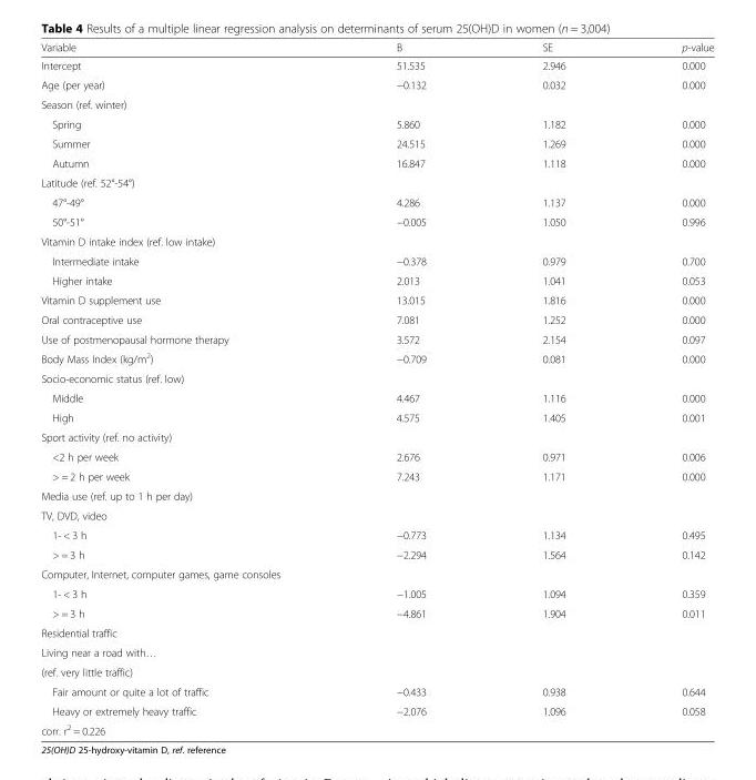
<table><thead><tr><td>Variable</td><td>B</td><td>SE</td><td>p-value</td></tr></thead><tbody><tr><td>Intercept</td><td>51.535</td><td>2.946</td><td>0.000</td></tr><tr><td>Age (per year)</td><td>−0.132</td><td>0.032</td><td>0.000</td></tr><tr><td colspan="4">Season (ref. winter)</td></tr><tr><td>Spring</td><td>5.860</td><td>1.182</td><td>0.000</td></tr><tr><td>Summer</td><td>24.515</td><td>1.269</td><td>0.000</td></tr><tr><td>Autumn</td><td>16.847</td><td>1.118</td><td>0.000</td></tr><tr><td colspan="4">Latitude (ref. 52°-54°)</td></tr><tr><td>47°-49°</td><td>4.286</td><td>1.137</td><td>0.000</td></tr><tr><td>50°-51°</td><td>−0.005</td><td>1.050</td><td>0.996</td></tr><tr><td colspan="4">Vitamin D intake index (ref. low intake)</td></tr><tr><td>Intermediate intake</td><td>−0.378</td><td>0.979</td><td>0.700</td></tr><tr><td>Higher intake</td><td>2.013</td><td>1.041</td><td>0.053</td></tr><tr><td>Vitamin D supplement use</td><td>13.015</td><td>1.816</td><td>0.000</td></tr><tr><td>Oral contraceptive use</td><td>7.081</td><td>1.252</td><td>0.000</td></tr><tr><td>Use of postmenopausal hormone therapy</td><td>3.572</td><td>2.154</td><td>0.097</td></tr><tr><td>Body Mass Index (kg/m<sup>2</sup>)</td><td>−0.709</td><td>0.081</td><td>0.000</td></tr><tr><td colspan="4">Socio-economic status (ref. low)</td></tr><tr><td>Middle</td><td>4.467</td><td>1.116</td><td>0.000</td></tr><tr><td>High</td><td>4.575</td><td>1.405</td><td>0.001</td></tr><tr><td colspan="4">Sport activity (ref. no activity)</td></tr><tr><td>&lt;2 h per week</td><td>2.676</td><td>0.971</td><td>0.006</td></tr><tr><td>&gt; = 2 h per week</td><td>7.243</td><td>1.171</td><td>0.000</td></tr><tr><td colspan="4">Media use (ref. up to 1 h per day)</td></tr><tr><td colspan="4">TV, DVD, video</td></tr><tr><td>1- &lt; 3 h</td><td>−0.773</td><td>1.134</td><td>0.495</td></tr><tr><td>&gt; = 3 h</td><td>−2.294</td><td>1.564</td><td>0.142</td></tr><tr><td colspan="4">Computer, Internet, computer games, game consoles</td></tr><tr><td>1- &lt; 3 h</td><td>−1.005</td><td>1.094</td><td>0.359</td></tr><tr><td>&gt; = 3 h</td><td>−4.861</td><td>1.904</td><td>0.011</td></tr><tr><td colspan="4">Residential traffic</td></tr><tr><td colspan="4">Living near a road with…</td></tr><tr><td colspan="4">(ref. very little traffic)</td></tr><tr><td>Fair amount or quite a lot of traffic</td><td>−0.433</td><td>0.938</td><td>0.644</td></tr><tr><td>Heavy or extremely heavy traffic</td><td>−2.076</td><td>1.096</td><td>0.058</td></tr><tr><td>corr. r<sup>2</sup> = 0.226</td><td></td><td></td><td></td></tr></tbody></table>